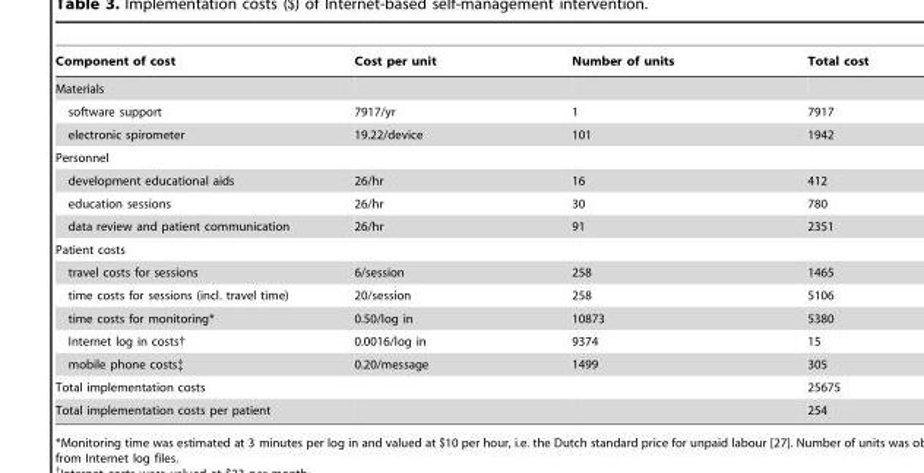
<table><thead><tr><td>Component of cost</td><td>Cost per unit</td><td>Number of units</td><td>Total cost</td></tr></thead><tbody><tr><td colspan="4">Materials</td></tr><tr><td>software support</td><td>7917/yr</td><td>1</td><td>7917</td></tr><tr><td>electronic spirometer</td><td>19.22/device</td><td>101</td><td>1942</td></tr><tr><td colspan="4">Personnel</td></tr><tr><td>development educational aids</td><td>26/hr</td><td>16</td><td>412</td></tr><tr><td>education sessions</td><td>26/hr</td><td>30</td><td>780</td></tr><tr><td>data review and patient communication</td><td>26/hr</td><td>91</td><td>2351</td></tr><tr><td colspan="4">Patient costs</td></tr><tr><td>travel costs for sessions</td><td>6/session</td><td>258</td><td>1465</td></tr><tr><td>time costs for sessions (incl. travel time)</td><td>20/session</td><td>258</td><td>5106</td></tr><tr><td>time costs for monitoring*</td><td>0.50/log in</td><td>10873</td><td>5380</td></tr><tr><td>Internet log in costs†</td><td>0.0016/log in</td><td>9374</td><td>15</td></tr><tr><td>mobile phone costs‡</td><td>0.20/message</td><td>1499</td><td>305</td></tr><tr><td>Total implementation costs</td><td></td><td></td><td>25675</td></tr><tr><td>Total implementation costs per patient</td><td></td><td></td><td>254</td></tr></tbody></table>